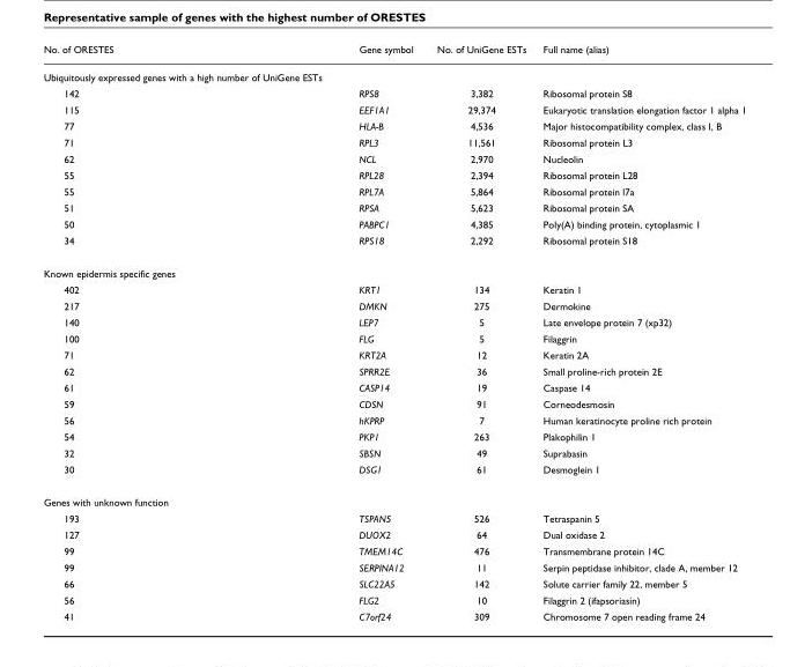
<table><thead><tr><td>No. of ORESTES</td><td>Gene symbol</td><td>No. of UniGene ESTs</td><td>Full name (alias)</td></tr></thead><tbody><tr><td colspan="4">Ubiquitously expressed genes with a high number of UniGene ESTs</td></tr><tr><td>142</td><td>RPS8</td><td>3,382</td><td>Ribosomal protein S8</td></tr><tr><td>115</td><td>EEF1A1</td><td>29,374</td><td>Eukaryotic translation elongation factor 1 alpha 1</td></tr><tr><td>77</td><td>HLA-B</td><td>4,536</td><td>Major histocompatibility complex, class I, B</td></tr><tr><td>71</td><td>RPL3</td><td>11,561</td><td>Ribosomal protein L3</td></tr><tr><td>62</td><td>NCL</td><td>2,970</td><td>Nucleolin</td></tr><tr><td>55</td><td>RPL28</td><td>2,394</td><td>Ribosomal protein L28</td></tr><tr><td>55</td><td>RPL7A</td><td>5,864</td><td>Ribosomal protein l7a</td></tr><tr><td>51</td><td>RPSA</td><td>5,623</td><td>Ribosomal protein SA</td></tr><tr><td>50</td><td>PABPC1</td><td>4,385</td><td>Poly(A) binding protein, cytoplasmic 1</td></tr><tr><td>34</td><td>RPS18</td><td>2,292</td><td>Ribosomal protein S18</td></tr><tr><td colspan="4">Known epidermis specific genes</td></tr><tr><td>402</td><td>KRT1</td><td>134</td><td>Keratin 1</td></tr><tr><td>217</td><td>DMKN</td><td>275</td><td>Dermokine</td></tr><tr><td>140</td><td>LEP7</td><td>5</td><td>Late envelope protein 7 (xp32)</td></tr><tr><td>100</td><td>FLG</td><td>5</td><td>Filaggrin</td></tr><tr><td>71</td><td>KRT2A</td><td>12</td><td>Keratin 2A</td></tr><tr><td>62</td><td>SPRR2E</td><td>36</td><td>Small proline-rich protein 2E</td></tr><tr><td>61</td><td>CASP14</td><td>19</td><td>Caspase 14</td></tr><tr><td>59</td><td>CDSN</td><td>91</td><td>Corneodesmosin</td></tr><tr><td>56</td><td>hKPRP</td><td>7</td><td>Human keratinocyte proline rich protein</td></tr><tr><td>54</td><td>PKP1</td><td>263</td><td>Plakophilin 1</td></tr><tr><td>32</td><td>SBSN</td><td>49</td><td>Suprabasin</td></tr><tr><td>30</td><td>DSG1</td><td>61</td><td>Desmoglein 1</td></tr><tr><td colspan="4">Genes with unknown function</td></tr><tr><td>193</td><td>TSPAN5</td><td>526</td><td>Tetraspanin 5</td></tr><tr><td>127</td><td>DUOX2</td><td>64</td><td>Dual oxidase 2</td></tr><tr><td>99</td><td>TMEM14C</td><td>476</td><td>Transmembrane protein 14C</td></tr><tr><td>99</td><td>SERPINA12</td><td>11</td><td>Serpin peptidase inhibitor, clade A, member 12</td></tr><tr><td>66</td><td>SLC22A5</td><td>142</td><td>Solute carrier family 22, member 5</td></tr><tr><td>56</td><td>FLG2</td><td>10</td><td>Filaggrin 2 (ifapsoriasin)</td></tr><tr><td>41</td><td>C7orf24</td><td>309</td><td>Chromosome 7 open reading frame 24</td></tr></tbody></table>